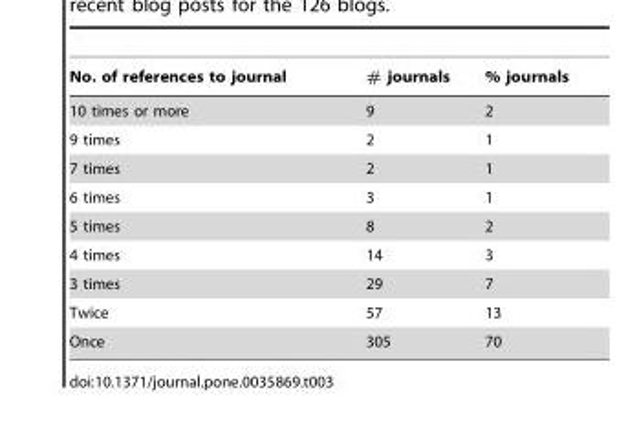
<table><thead><tr><td>No. of references to journal</td><td># journals</td><td>% journals</td></tr></thead><tbody><tr><td>10 times or more</td><td>9</td><td>2</td></tr><tr><td>9 times</td><td>2</td><td>1</td></tr><tr><td>7 times</td><td>2</td><td>1</td></tr><tr><td>6 times</td><td>3</td><td>1</td></tr><tr><td>5 times</td><td>8</td><td>2</td></tr><tr><td>4 times</td><td>14</td><td>3</td></tr><tr><td>3 times</td><td>29</td><td>7</td></tr><tr><td>Twice</td><td>57</td><td>13</td></tr><tr><td>Once</td><td>305</td><td>70</td></tr></tbody></table>